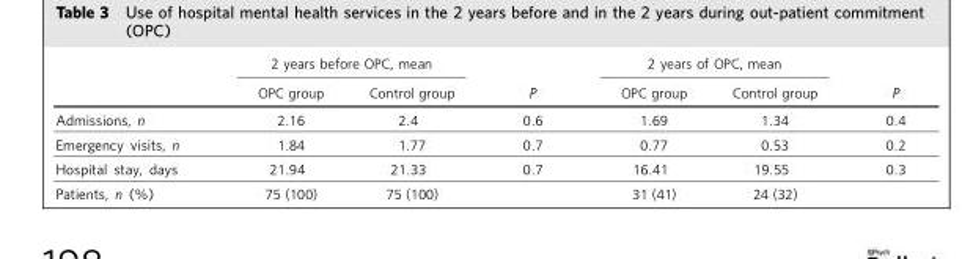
<table><thead><tr><td rowspan="2"></td><td colspan="2">2 years before OPC, mean</td><td rowspan="2">P</td><td colspan="2">2 years of OPC, mean</td><td rowspan="2">P</td></tr><tr><td>OPC group</td><td>Control group</td><td>OPC group</td><td>Control group</td></tr></thead><tbody><tr><td>Admissions, n</td><td>2.16</td><td>2.4</td><td>0.6</td><td>1.69</td><td>1.34</td><td>0.4</td></tr><tr><td>Emergency visits, n</td><td>1.84</td><td>1.77</td><td>0.7</td><td>0.77</td><td>0.53</td><td>0.2</td></tr><tr><td>Hospital stay, days</td><td>21.94</td><td>21.33</td><td>0.7</td><td>16.41</td><td>19.55</td><td>0.3</td></tr><tr><td>Patients, n (%)</td><td>75 (100)</td><td>75 (100)</td><td></td><td>31 (41)</td><td>24 (32)</td><td></td></tr></tbody></table>